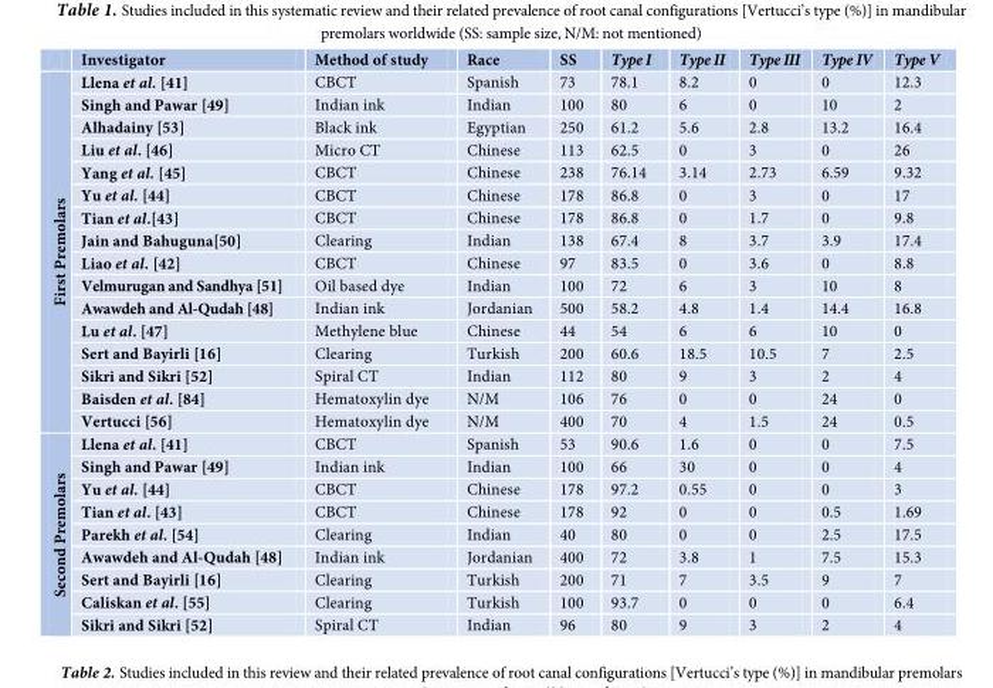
<table><thead><tr><td></td><td>Investigator</td><td>Method of study</td><td>Race</td><td>SS</td><td>Type I</td><td>Type II</td><td>Type III</td><td>Type IV</td><td>Type V</td></tr></thead><tbody><tr><td rowspan="16">First Premolars</td><td>Llena et al. [41]</td><td>CBCT</td><td>Spanish</td><td>73</td><td>78.1</td><td>8.2</td><td>0</td><td>0</td><td>12.3</td></tr><tr><td>Singh and Pawar [49]</td><td>Indian ink</td><td>Indian</td><td>100</td><td>80</td><td>6</td><td>0</td><td>10</td><td>2</td></tr><tr><td>Alhadainy [53]</td><td>Black ink</td><td>Egyptian</td><td>250</td><td>61.2</td><td>5.6</td><td>2.8</td><td>13.2</td><td>16.4</td></tr><tr><td>Liu et al. [46]</td><td>Micro CT</td><td>Chinese</td><td>113</td><td>62.5</td><td>0</td><td>3</td><td>0</td><td>26</td></tr><tr><td>Yang et al. [45]</td><td>CBCT</td><td>Chinese</td><td>238</td><td>76.14</td><td>3.14</td><td>2.73</td><td>6.59</td><td>9.32</td></tr><tr><td>Yu et al. [44]</td><td>CBCT</td><td>Chinese</td><td>178</td><td>86.8</td><td>0</td><td>3</td><td>0</td><td>17</td></tr><tr><td>Tian et al.[43]</td><td>CBCT</td><td>Chinese</td><td>178</td><td>86.8</td><td>0</td><td>1.7</td><td>0</td><td>9.8</td></tr><tr><td>Jain and Bahuguna[50]</td><td>Clearing</td><td>Indian</td><td>138</td><td>67.4</td><td>8</td><td>3.7</td><td>3.9</td><td>17.4</td></tr><tr><td>Liao et al. [42]</td><td>CBCT</td><td>Chinese</td><td>97</td><td>83.5</td><td>0</td><td>3.6</td><td>0</td><td>8.8</td></tr><tr><td>Velmurugan and Sandhya [51]</td><td>Oil based dye</td><td>Indian</td><td>100</td><td>72</td><td>6</td><td>3</td><td>10</td><td>8</td></tr><tr><td>Awawdeh and Al-Qudah [48]</td><td>Indian ink</td><td>Jordanian</td><td>500</td><td>58.2</td><td>4.8</td><td>1.4</td><td>14.4</td><td>16.8</td></tr><tr><td>Lu et al. [47]</td><td>Methylene blue</td><td>Chinese</td><td>44</td><td>54</td><td>6</td><td>6</td><td>10</td><td>0</td></tr><tr><td>Sert and Bayirli [16]</td><td>Clearing</td><td>Turkish</td><td>200</td><td>60.6</td><td>18.5</td><td>10.5</td><td>7</td><td>2.5</td></tr><tr><td>Sikri and Sikri [52]</td><td>Spiral CT</td><td>Indian</td><td>112</td><td>80</td><td>9</td><td>3</td><td>2</td><td>4</td></tr><tr><td>Baisden et al. [84]</td><td>Hematoxylin dye</td><td>N/M</td><td>106</td><td>76</td><td>0</td><td>0</td><td>24</td><td>0</td></tr><tr><td>Vertucci [56]</td><td>Hematoxylin dye</td><td>N/M</td><td>400</td><td>70</td><td>4</td><td>1.5</td><td>24</td><td>0.5</td></tr><tr><td rowspan="9">Second Premolars</td><td>Llena et al. [41]</td><td>CBCT</td><td>Spanish</td><td>53</td><td>90.6</td><td>1.6</td><td>0</td><td>0</td><td>7.5</td></tr><tr><td>Singh and Pawar [49]</td><td>Indian ink</td><td>Indian</td><td>100</td><td>66</td><td>30</td><td>0</td><td>0</td><td>4</td></tr><tr><td>Yu et al. [44]</td><td>CBCT</td><td>Chinese</td><td>178</td><td>97.2</td><td>0.55</td><td>0</td><td>0</td><td>3</td></tr><tr><td>Tian et al. [43]</td><td>CBCT</td><td>Chinese</td><td>178</td><td>92</td><td>0</td><td>0</td><td>0.5</td><td>1.69</td></tr><tr><td>Parekh et al. [54]</td><td>Clearing</td><td>Indian</td><td>40</td><td>80</td><td>0</td><td>0</td><td>2.5</td><td>17.5</td></tr><tr><td>Awawdeh and Al-Qudah [48]</td><td>Indian ink</td><td>Jordanian</td><td>400</td><td>72</td><td>3.8</td><td>1</td><td>7.5</td><td>15.3</td></tr><tr><td>Sert and Bayirli [16]</td><td>Clearing</td><td>Turkish</td><td>200</td><td>71</td><td>7</td><td>3.5</td><td>9</td><td>7</td></tr><tr><td>Caliskan et al. [55]</td><td>Clearing</td><td>Turkish</td><td>100</td><td>93.7</td><td>0</td><td>0</td><td>0</td><td>6.4</td></tr><tr><td>Sikri and Sikri [52]</td><td>Spiral CT</td><td>Indian</td><td>96</td><td>80</td><td>9</td><td>3</td><td>2</td><td>4</td></tr></tbody></table>